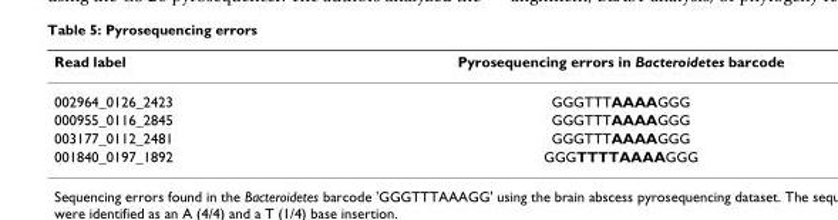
<table><thead><tr><td>Read label</td><td>Pyrosequencing errors in Bacteroidetes barcode</td></tr></thead><tbody><tr><td>002964_0126_2423</td><td>GGGTTTAAAAGGG</td></tr><tr><td>000955_0116_2845</td><td>GGGTTTAAAAGGG</td></tr><tr><td>003177_0112_2481</td><td>GGGTTTAAAAGGG</td></tr><tr><td>001840_0197_1892</td><td>GGGTTTTAAAAGGG</td></tr></tbody></table>